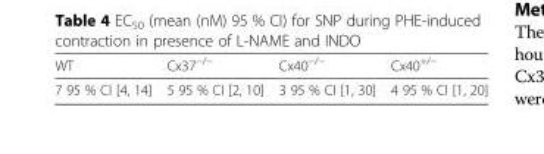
<table><thead><tr><td>WT</td><td>Cx37<sup>−/−</sup></td><td>Cx40<sup>−/−</sup></td><td>Cx40<sup>+/−</sup></td></tr></thead><tbody><tr><td>7 95 % CI [4, 14]</td><td>5 95 % CI [2, 10]</td><td>3 95 % CI [1, 30]</td><td>4 95 % CI [1, 20]</td></tr></tbody></table>